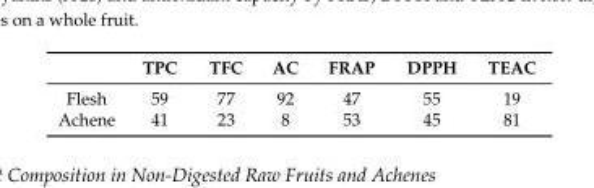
<table><thead><tr><td></td><td>TPC</td><td>TFC</td><td>AC</td><td>FRAP</td><td>DPPH</td><td>TEAC</td></tr></thead><tbody><tr><td>Flesh</td><td>59</td><td>77</td><td>92</td><td>47</td><td>55</td><td>19</td></tr><tr><td>Achene</td><td>41</td><td>23</td><td>8</td><td>53</td><td>45</td><td>81</td></tr></tbody></table>